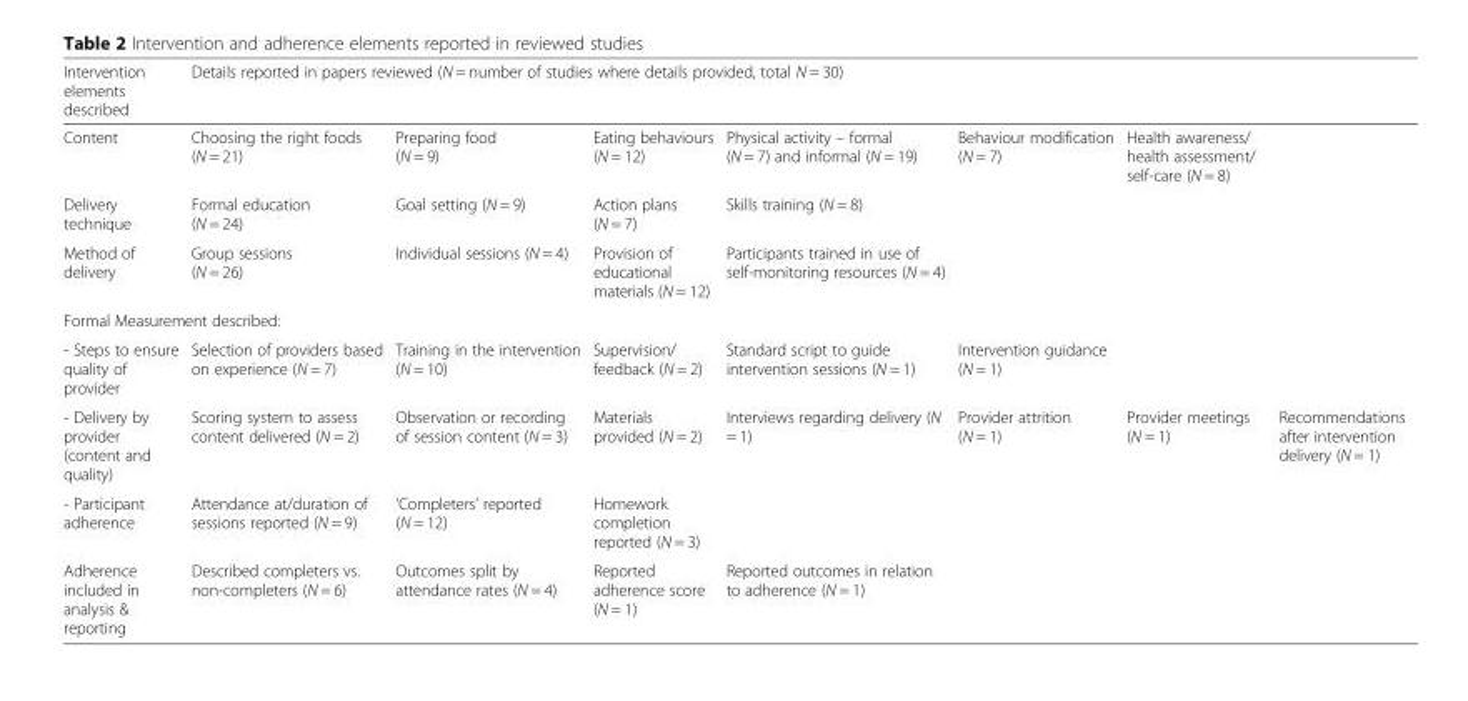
<table><thead><tr><td rowspan="2">Intervention elements described Content</td><td colspan="7">Details reported in papers reviewed (N = number of studies where details provided, total N = 30)</td></tr><tr><td>Choosing the right foods (N = 21)</td><td>Preparing food (N = 9)</td><td>Eating behaviours (N = 12)</td><td>Physical activity – formal (N = 7) and informal (N = 19)</td><td>Behaviour modification (N = 7)</td><td>Health awareness/ health assessment/ self-care (N = 8)</td><td></td></tr></thead><tbody><tr><td>Delivery technique</td><td>Formal education (N = 24)</td><td>Goal setting (N = 9)</td><td>Action plans (N = 7)</td><td>Skills training (N = 8)</td><td></td><td></td><td></td></tr><tr><td>Method of delivery</td><td>Group sessions (N = 26)</td><td>Individual sessions (N = 4)</td><td>Provision of educational materials (N = 12)</td><td>Participants trained in use of self-monitoring resources (N = 4)</td><td></td><td></td><td></td></tr><tr><td colspan="8">Formal Measurement described:</td></tr><tr><td>- Steps to ensure quality of provider</td><td>Selection of providers based on experience (N = 7)</td><td>Training in the intervention (N = 10)</td><td>Supervision/ feedback (N = 2)</td><td>Standard script to guide intervention sessions (N = 1)</td><td>Intervention guidance (N = 1)</td><td></td><td></td></tr><tr><td>- Delivery by provider (content and quality)</td><td>Scoring system to assess content delivered (N = 2)</td><td>Observation or recording of session content (N = 3)</td><td>Materials provided (N = 2)</td><td>Interviews regarding delivery (N = 1)</td><td>Provider attrition (N = 1)</td><td>Provider meetings (N = 1)</td><td>Recommendations after intervention delivery (N = 1)</td></tr><tr><td>- Participant adherence</td><td>Attendance at/duration of sessions reported (N = 9)</td><td>‘Completers’ reported (N = 12)</td><td>Homework completion reported (N = 3)</td><td></td><td></td><td></td><td></td></tr><tr><td>Adherence included in analysis &amp; reporting</td><td>Described completers vs. non-completers (N = 6)</td><td>Outcomes split by attendance rates (N = 4)</td><td>Reported adherence score (N = 1)</td><td>Reported outcomes in relation to adherence (N = 1)</td><td></td><td></td><td></td></tr></tbody></table>